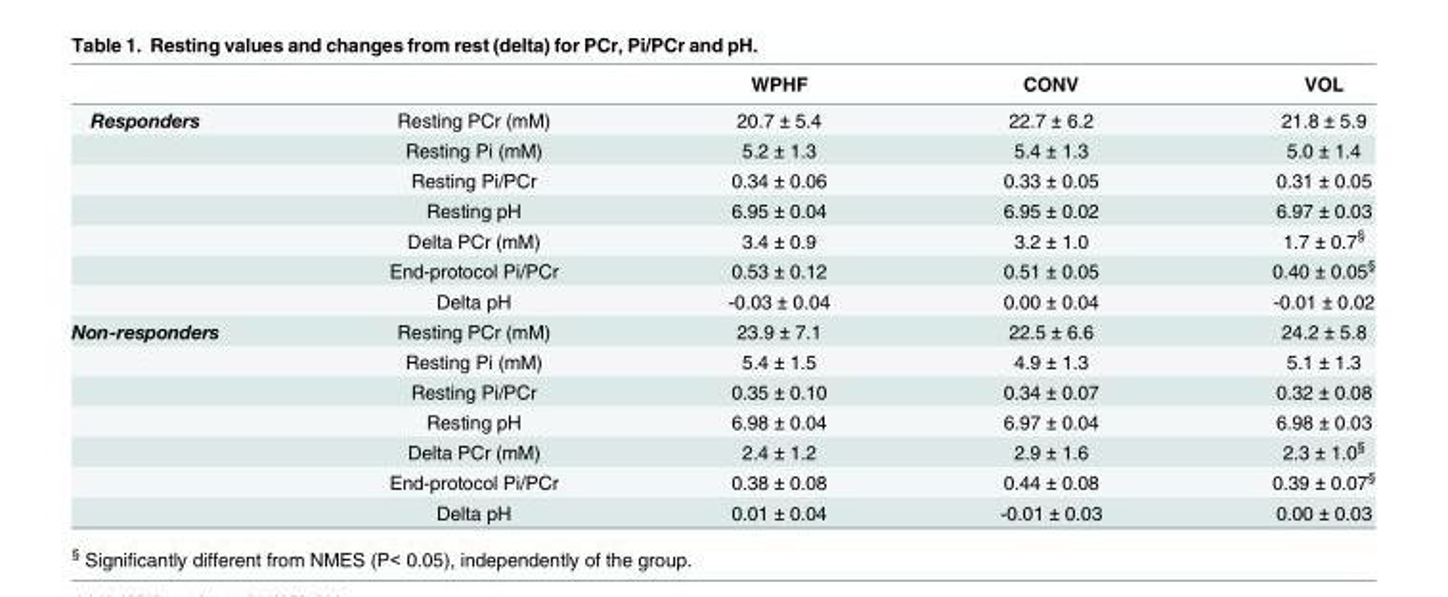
<table><thead><tr><td></td><td></td><td>WPHF</td><td>CONV</td><td>VOL</td></tr></thead><tbody><tr><td rowspan="7">Responders</td><td>Resting PCr (mM)</td><td>20.7 ± 5.4</td><td>22.7 ± 6.2</td><td>21.8 ± 5.9</td></tr><tr><td>Resting Pi (mM)</td><td>5.2 ± 1.3</td><td>5.4 ± 1.3</td><td>5.0 ± 1.4</td></tr><tr><td>Resting Pi/PCr</td><td>0.34 ± 0.06</td><td>0.33 ± 0.05</td><td>0.31 ± 0.05</td></tr><tr><td>Resting pH</td><td>6.95 ± 0.04</td><td>6.95 ± 0.02</td><td>6.97 ± 0.03</td></tr><tr><td>Delta PCr (mM)</td><td>3.4 ± 0.9</td><td>3.2 ± 1.0</td><td>1.7 ± 0.7<sup>§</sup></td></tr><tr><td>End-protocol Pi/PCr</td><td>0.53 ± 0.12</td><td>0.51 ± 0.05</td><td>0.40 ± 0.05<sup>§</sup></td></tr><tr><td>Delta pH</td><td>-0.03 ± 0.04</td><td>0.00 ± 0.04</td><td>-0.01 ± 0.02</td></tr><tr><td rowspan="7">Non-responders</td><td>Resting PCr (mM)</td><td>23.9 ± 7.1</td><td>22.5 ± 6.6</td><td>24.2 ± 5.8</td></tr><tr><td>Resting Pi (mM)</td><td>5.4 ± 1.5</td><td>4.9 ± 1.3</td><td>5.1 ± 1.3</td></tr><tr><td>Resting Pi/PCr</td><td>0.35 ± 0.10</td><td>0.34 ± 0.07</td><td>0.32 ± 0.08</td></tr><tr><td>Resting pH</td><td>6.98 ± 0.04</td><td>6.97 ± 0.04</td><td>6.98 ± 0.03</td></tr><tr><td>Delta PCr (mM)</td><td>2.4 ± 1.2</td><td>2.9 ± 1.6</td><td>2.3 ± 1.0<sup>§</sup></td></tr><tr><td>End-protocol Pi/PCr</td><td>0.38 ± 0.08</td><td>0.44 ± 0.08</td><td>0.39 ± 0.07<sup>§</sup></td></tr><tr><td>Delta pH</td><td>0.01 ± 0.04</td><td>-0.01 ± 0.03</td><td>0.00 ± 0.03</td></tr></tbody></table>